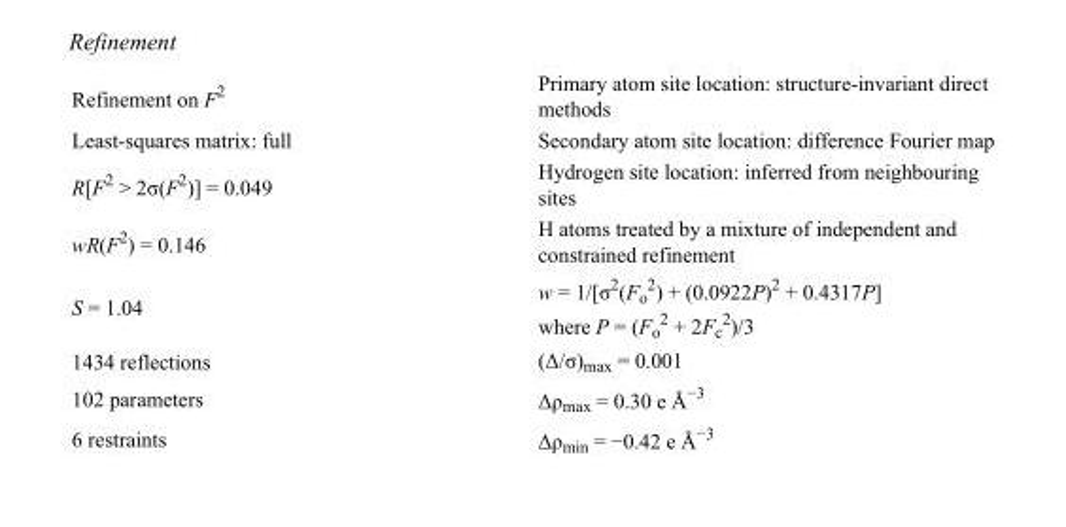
<table><tbody><tr><td>Refinement on F<sup>2</sup></td><td>Primary atom site location: structure-invariant direct methods</td></tr><tr><td>Least-squares matrix: full</td><td>Secondary atom site location: difference Fourier map</td></tr><tr><td>R[F<sup>2</sup> &gt; 2σ(F<sup>2</sup>)] = 0.049</td><td>Hydrogen site location: inferred from neighbouring sites</td></tr><tr><td>wR(F<sup>2</sup>) = 0.146</td><td>H atoms treated by a mixture of independent and constrained refinement</td></tr><tr><td>S = 1.04</td><td>w = 1/[σ<sup>2</sup>(F<sub>o</sub> <sup>2</sup>) + (0.0922P)<sup>2</sup> + 0.4317P] where P = (F<sub>o</sub> <sup>2</sup> + 2F<sub>c</sub> <sup>2</sup>)/3</td></tr><tr><td>1434 reflections</td><td>(Δ/σ)<sub>max</sub> = 0.001</td></tr><tr><td>102 parameters</td><td>Δρ<sub>max</sub> = 0.30 e Å<sup>−3</sup></td></tr><tr><td>6 restraints</td><td>Δρ<sub>min</sub> = −0.42 e Å<sup>−3</sup></td></tr></tbody></table>